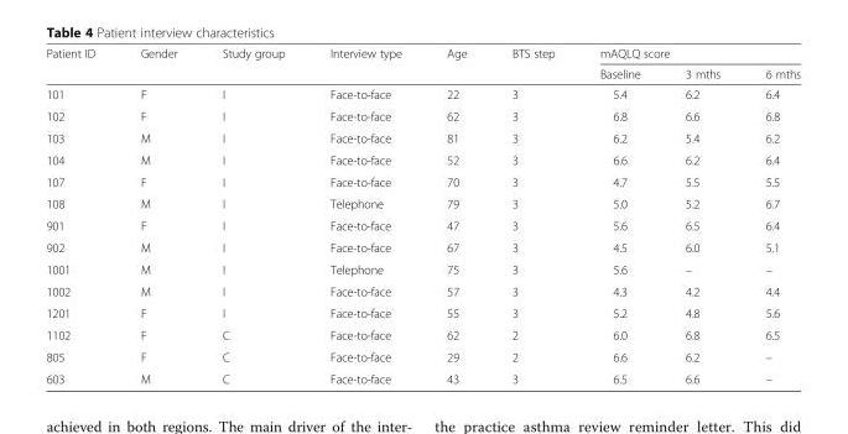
<table><thead><tr><td rowspan="2">Patient ID</td><td rowspan="2">Gender</td><td rowspan="2">Study group</td><td rowspan="2">Interview type</td><td rowspan="2">Age</td><td rowspan="2">BTS step</td><td colspan="3">mAQLQ score</td></tr><tr><td>Baseline</td><td>3 mths</td><td>6 mths</td></tr></thead><tbody><tr><td>101</td><td>F</td><td>I</td><td>Face-to-face</td><td>22</td><td>3</td><td>5.4</td><td>6.2</td><td>6.4</td></tr><tr><td>102</td><td>F</td><td>I</td><td>Face-to-face</td><td>62</td><td>3</td><td>6.8</td><td>6.6</td><td>6.8</td></tr><tr><td>103</td><td>M</td><td>I</td><td>Face-to-face</td><td>81</td><td>3</td><td>6.2</td><td>5.4</td><td>6.2</td></tr><tr><td>104</td><td>M</td><td>I</td><td>Face-to-face</td><td>52</td><td>3</td><td>6.6</td><td>6.2</td><td>6.4</td></tr><tr><td>107</td><td>F</td><td>I</td><td>Face-to-face</td><td>70</td><td>3</td><td>4.7</td><td>5.5</td><td>5.5</td></tr><tr><td>108</td><td>M</td><td>I</td><td>Telephone</td><td>79</td><td>3</td><td>5.0</td><td>5.2</td><td>6.7</td></tr><tr><td>901</td><td>F</td><td>I</td><td>Face-to-face</td><td>47</td><td>3</td><td>5.6</td><td>6.5</td><td>6.4</td></tr><tr><td>902</td><td>M</td><td>I</td><td>Face-to-face</td><td>67</td><td>3</td><td>4.5</td><td>6.0</td><td>5.1</td></tr><tr><td>1001</td><td>M</td><td>I</td><td>Telephone</td><td>75</td><td>3</td><td>5.6</td><td>–</td><td>–</td></tr><tr><td>1002</td><td>M</td><td>I</td><td>Face-to-face</td><td>57</td><td>3</td><td>4.3</td><td>4.2</td><td>4.4</td></tr><tr><td>1201</td><td>F</td><td>I</td><td>Face-to-face</td><td>55</td><td>3</td><td>5.2</td><td>4.8</td><td>5.6</td></tr><tr><td>1102</td><td>F</td><td>C</td><td>Face-to-face</td><td>62</td><td>2</td><td>6.0</td><td>6.8</td><td>6.5</td></tr><tr><td>805</td><td>F</td><td>C</td><td>Face-to-face</td><td>29</td><td>2</td><td>6.6</td><td>6.2</td><td>–</td></tr><tr><td>603</td><td>M</td><td>C</td><td>Face-to-face</td><td>43</td><td>3</td><td>6.5</td><td>6.6</td><td>–</td></tr></tbody></table>